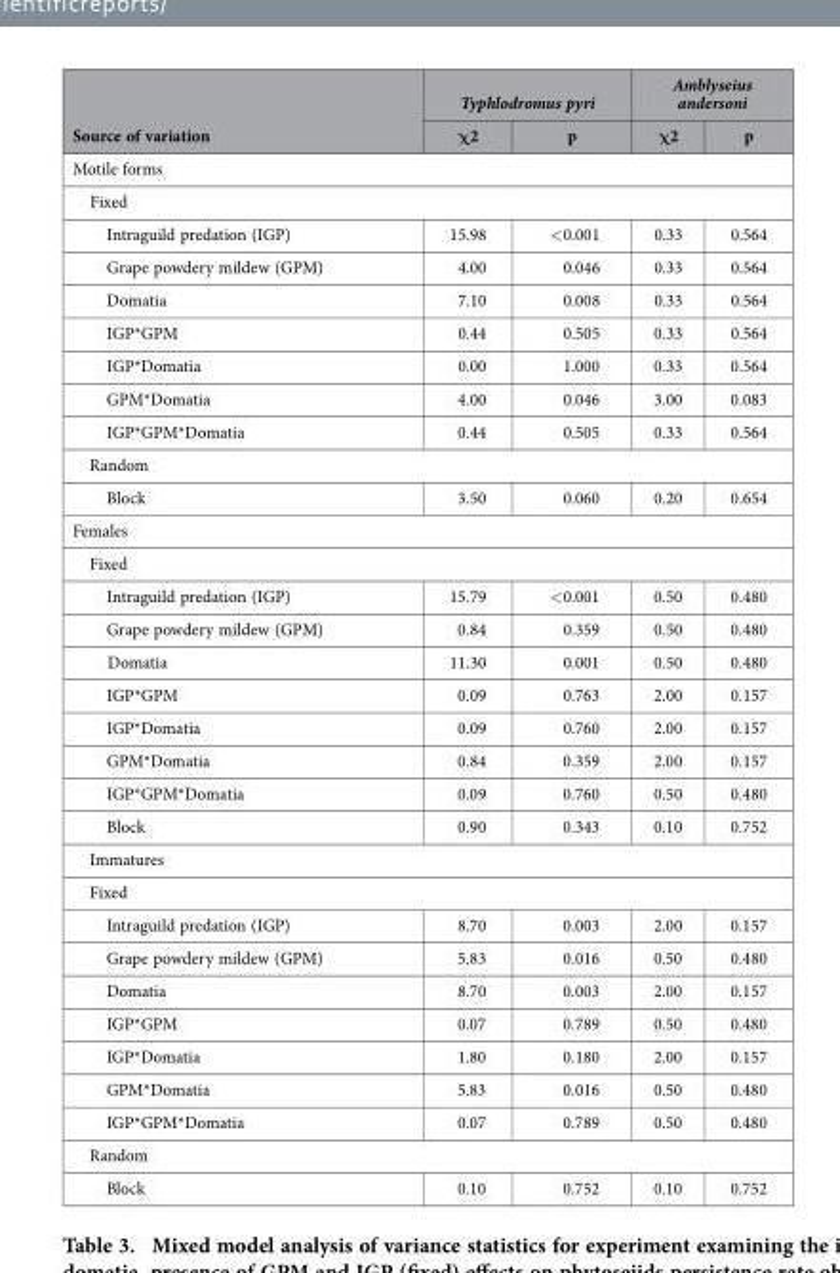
<table><thead><tr><td rowspan="2">Source of variation</td><td colspan="2">Typhlodromus pyri</td><td colspan="2">Amblyseius andersoni</td></tr><tr><td>χ2</td><td>p</td><td>χ2</td><td>p</td></tr></thead><tbody><tr><td colspan="5">Motile forms</td></tr><tr><td colspan="5">Fixed</td></tr><tr><td>Intraguild predation (IGP)</td><td>15.98</td><td>&lt;0.001</td><td>0.33</td><td>0.564</td></tr><tr><td>Grape powdery mildew (GPM)</td><td>4.00</td><td>0.046</td><td>0.33</td><td>0.564</td></tr><tr><td>Domatia</td><td>7.10</td><td>0.008</td><td>0.33</td><td>0.564</td></tr><tr><td>IGP*GPM</td><td>0.44</td><td>0.505</td><td>0.33</td><td>0.564</td></tr><tr><td>IGP*Domatia</td><td>0.00</td><td>1.000</td><td>0.33</td><td>0.564</td></tr><tr><td>GPM*Domatia</td><td>4.00</td><td>0.046</td><td>3.00</td><td>0.083</td></tr><tr><td>IGP*GPM*Domatia</td><td>0.44</td><td>0.505</td><td>0.33</td><td>0.564</td></tr><tr><td colspan="5">Random</td></tr><tr><td>Block</td><td>3.50</td><td>0.060</td><td>0.20</td><td>0.654</td></tr><tr><td colspan="5">Females</td></tr><tr><td colspan="5">Fixed</td></tr><tr><td>Intraguild predation (IGP)</td><td>15.79</td><td>&lt;0.001</td><td>0.50</td><td>0.480</td></tr><tr><td>Grape powdery mildew (GPM)</td><td>0.84</td><td>0.359</td><td>0.50</td><td>0.480</td></tr><tr><td>Domatia</td><td>11.30</td><td>0.001</td><td>0.50</td><td>0.480</td></tr><tr><td>IGP*GPM</td><td>0.09</td><td>0.763</td><td>2.00</td><td>0.157</td></tr><tr><td>IGP*Domatia</td><td>0.09</td><td>0.760</td><td>2.00</td><td>0.157</td></tr><tr><td>GPM*Domatia</td><td>0.84</td><td>0.359</td><td>2.00</td><td>0.157</td></tr><tr><td>IGP*GPM*Domatia</td><td>0.09</td><td>0.760</td><td>0.50</td><td>0.480</td></tr><tr><td>Block</td><td>0.90</td><td>0.343</td><td>0.10</td><td>0.752</td></tr><tr><td colspan="5">Immatures</td></tr><tr><td colspan="5">Fixed</td></tr><tr><td>Intraguild predation (IGP)</td><td>8.70</td><td>0.003</td><td>2.00</td><td>0.157</td></tr><tr><td>Grape powdery mildew (GPM)</td><td>5.83</td><td>0.016</td><td>0.50</td><td>0.480</td></tr><tr><td>Domatia</td><td>8.70</td><td>0.003</td><td>2.00</td><td>0.157</td></tr><tr><td>IGP*GPM</td><td>0.07</td><td>0.789</td><td>0.50</td><td>0.480</td></tr><tr><td>IGP*Domatia</td><td>1.80</td><td>0.180</td><td>2.00</td><td>0.157</td></tr><tr><td>GPM*Domatia</td><td>5.83</td><td>0.016</td><td>0.50</td><td>0.480</td></tr><tr><td>IGP*GPM*Domatia</td><td>0.07</td><td>0.789</td><td>0.50</td><td>0.480</td></tr><tr><td colspan="5">Random</td></tr><tr><td>Block</td><td>0.10</td><td>0.752</td><td>0.10</td><td>0.752</td></tr></tbody></table>